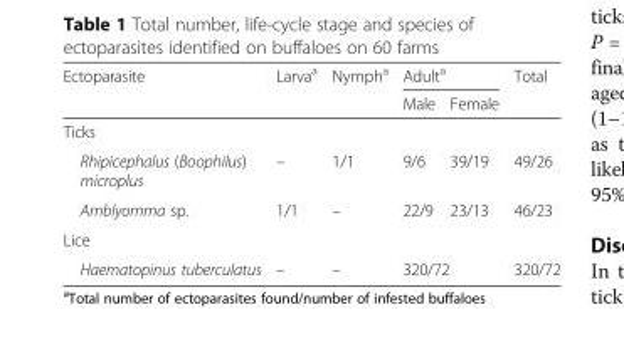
<table><thead><tr><td rowspan="2">Ectoparasite</td><td rowspan="2">Larva<sup>a</sup></td><td rowspan="2">Nymph<sup>a</sup></td><td colspan="2">Adult<sup>a</sup></td><td rowspan="2">Total</td></tr><tr><td>Male</td><td>Female</td></tr></thead><tbody><tr><td colspan="6">Ticks</td></tr><tr><td>Rhipicephalus (Boophilus) microplus</td><td>–</td><td>1/1</td><td>9/6</td><td>39/19</td><td>49/26</td></tr><tr><td>Amblyomma sp.</td><td>1/1</td><td>–</td><td>22/9</td><td>23/13</td><td>46/23</td></tr><tr><td colspan="6">Lice</td></tr><tr><td>Haematopinus tuberculatus</td><td>–</td><td>–</td><td colspan="2">320/72</td><td>320/72</td></tr></tbody></table>